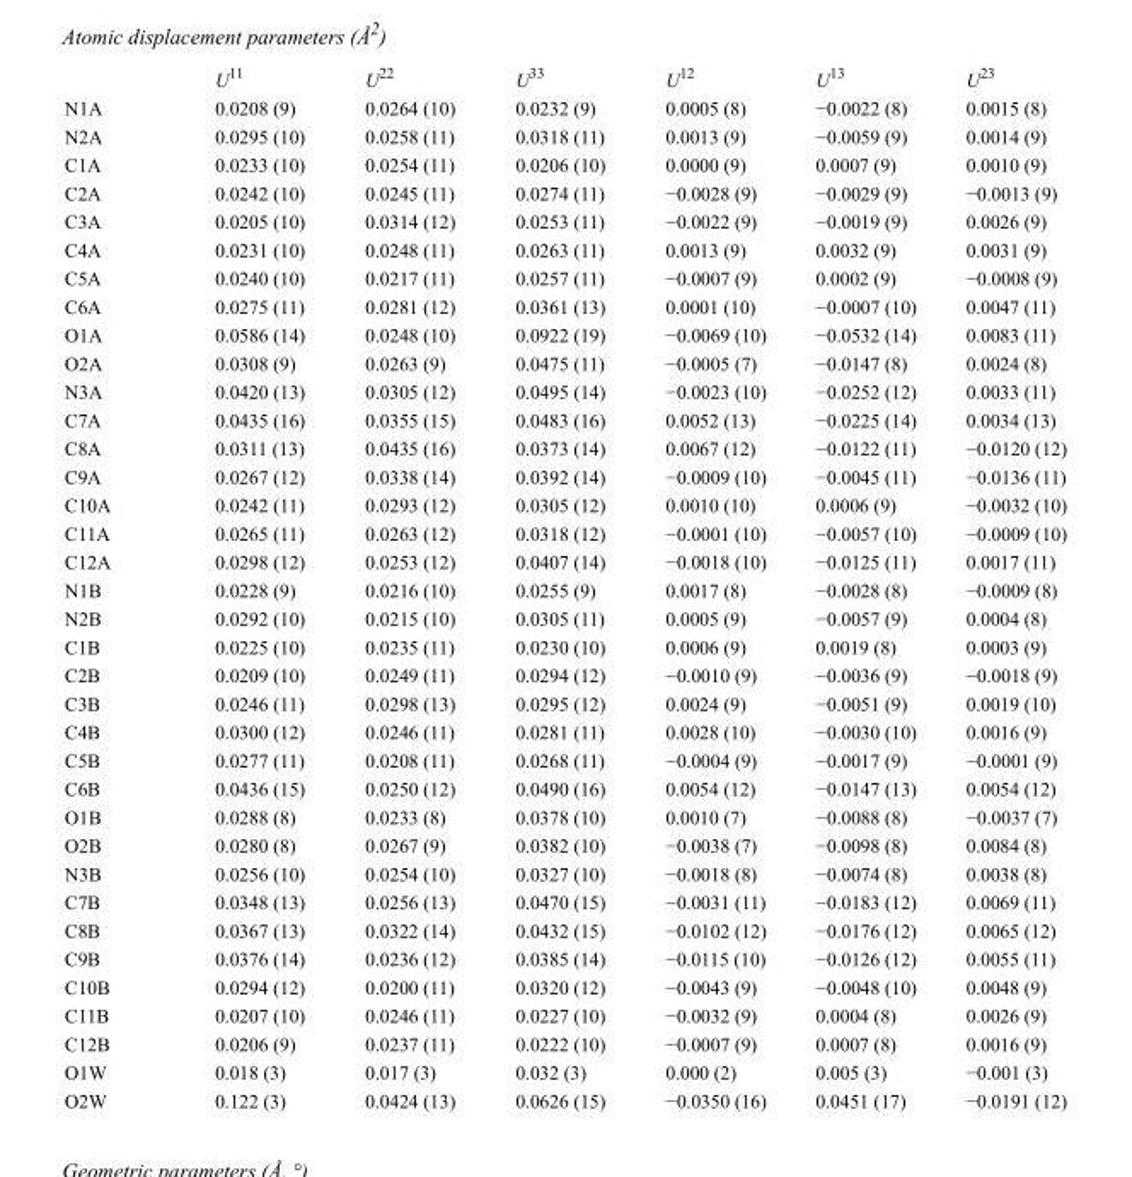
<table><thead><tr><td></td><td>U<sup>11</sup></td><td>U<sup>22</sup></td><td>U<sup>33</sup></td><td>U<sup>12</sup></td><td>U<sup>13</sup></td><td>U<sup>23</sup></td></tr></thead><tbody><tr><td>N1A</td><td>0.0208 (9)</td><td>0.0264 (10)</td><td>0.0232 (9)</td><td>0.0005 (8)</td><td>−0.0022 (8)</td><td>0.0015 (8)</td></tr><tr><td>N2A</td><td>0.0295 (10)</td><td>0.0258 (11)</td><td>0.0318 (11)</td><td>0.0013 (9)</td><td>−0.0059 (9)</td><td>0.0014 (9)</td></tr><tr><td>C1A</td><td>0.0233 (10)</td><td>0.0254 (11)</td><td>0.0206 (10)</td><td>0.0000 (9)</td><td>0.0007 (9)</td><td>0.0010 (9)</td></tr><tr><td>C2A</td><td>0.0242 (10)</td><td>0.0245 (11)</td><td>0.0274 (11)</td><td>−0.0028 (9)</td><td>−0.0029 (9)</td><td>−0.0013 (9)</td></tr><tr><td>C3A</td><td>0.0205 (10)</td><td>0.0314 (12)</td><td>0.0253 (11)</td><td>−0.0022 (9)</td><td>−0.0019 (9)</td><td>0.0026 (9)</td></tr><tr><td>C4A</td><td>0.0231 (10)</td><td>0.0248 (11)</td><td>0.0263 (11)</td><td>0.0013 (9)</td><td>0.0032 (9)</td><td>0.0031 (9)</td></tr><tr><td>C5A</td><td>0.0240 (10)</td><td>0.0217 (11)</td><td>0.0257 (11)</td><td>−0.0007 (9)</td><td>0.0002 (9)</td><td>−0.0008 (9)</td></tr><tr><td>C6A</td><td>0.0275 (11)</td><td>0.0281 (12)</td><td>0.0361 (13)</td><td>0.0001 (10)</td><td>−0.0007 (10)</td><td>0.0047 (11)</td></tr><tr><td>O1A</td><td>0.0586 (14)</td><td>0.0248 (10)</td><td>0.0922 (19)</td><td>−0.0069 (10)</td><td>−0.0532 (14)</td><td>0.0083 (11)</td></tr><tr><td>O2A</td><td>0.0308 (9)</td><td>0.0263 (9)</td><td>0.0475 (11)</td><td>−0.0005 (7)</td><td>−0.0147 (8)</td><td>0.0024 (8)</td></tr><tr><td>N3A</td><td>0.0420 (13)</td><td>0.0305 (12)</td><td>0.0495 (14)</td><td>−0.0023 (10)</td><td>−0.0252 (12)</td><td>0.0033 (11)</td></tr><tr><td>C7A</td><td>0.0435 (16)</td><td>0.0355 (15)</td><td>0.0483 (16)</td><td>0.0052 (13)</td><td>−0.0225 (14)</td><td>0.0034 (13)</td></tr><tr><td>C8A</td><td>0.0311 (13)</td><td>0.0435 (16)</td><td>0.0373 (14)</td><td>0.0067 (12)</td><td>−0.0122 (11)</td><td>−0.0120 (12)</td></tr><tr><td>C9A</td><td>0.0267 (12)</td><td>0.0338 (14)</td><td>0.0392 (14)</td><td>−0.0009 (10)</td><td>−0.0045 (11)</td><td>−0.0136 (11)</td></tr><tr><td>C10A</td><td>0.0242 (11)</td><td>0.0293 (12)</td><td>0.0305 (12)</td><td>0.0010 (10)</td><td>0.0006 (9)</td><td>−0.0032 (10)</td></tr><tr><td>C11A</td><td>0.0265 (11)</td><td>0.0263 (12)</td><td>0.0318 (12)</td><td>−0.0001 (10)</td><td>−0.0057 (10)</td><td>−0.0009 (10)</td></tr><tr><td>C12A</td><td>0.0298 (12)</td><td>0.0253 (12)</td><td>0.0407 (14)</td><td>−0.0018 (10)</td><td>−0.0125 (11)</td><td>0.0017 (11)</td></tr><tr><td>N1B</td><td>0.0228 (9)</td><td>0.0216 (10)</td><td>0.0255 (9)</td><td>0.0017 (8)</td><td>−0.0028 (8)</td><td>−0.0009 (8)</td></tr><tr><td>N2B</td><td>0.0292 (10)</td><td>0.0215 (10)</td><td>0.0305 (11)</td><td>0.0005 (9)</td><td>−0.0057 (9)</td><td>0.0004 (8)</td></tr><tr><td>C1B</td><td>0.0225 (10)</td><td>0.0235 (11)</td><td>0.0230 (10)</td><td>0.0006 (9)</td><td>0.0019 (8)</td><td>0.0003 (9)</td></tr><tr><td>C2B</td><td>0.0209 (10)</td><td>0.0249 (11)</td><td>0.0294 (12)</td><td>−0.0010 (9)</td><td>−0.0036 (9)</td><td>−0.0018 (9)</td></tr><tr><td>C3B</td><td>0.0246 (11)</td><td>0.0298 (13)</td><td>0.0295 (12)</td><td>0.0024 (9)</td><td>−0.0051 (9)</td><td>0.0019 (10)</td></tr><tr><td>C4B</td><td>0.0300 (12)</td><td>0.0246 (11)</td><td>0.0281 (11)</td><td>0.0028 (10)</td><td>−0.0030 (10)</td><td>0.0016 (9)</td></tr><tr><td>C5B</td><td>0.0277 (11)</td><td>0.0208 (11)</td><td>0.0268 (11)</td><td>−0.0004 (9)</td><td>−0.0017 (9)</td><td>−0.0001 (9)</td></tr><tr><td>C6B</td><td>0.0436 (15)</td><td>0.0250 (12)</td><td>0.0490 (16)</td><td>0.0054 (12)</td><td>−0.0147 (13)</td><td>0.0054 (12)</td></tr><tr><td>O1B</td><td>0.0288 (8)</td><td>0.0233 (8)</td><td>0.0378 (10)</td><td>0.0010 (7)</td><td>−0.0088 (8)</td><td>−0.0037 (7)</td></tr><tr><td>O2B</td><td>0.0280 (8)</td><td>0.0267 (9)</td><td>0.0382 (10)</td><td>−0.0038 (7)</td><td>−0.0098 (8)</td><td>0.0084 (8)</td></tr><tr><td>N3B</td><td>0.0256 (10)</td><td>0.0254 (10)</td><td>0.0327 (10)</td><td>−0.0018 (8)</td><td>−0.0074 (8)</td><td>0.0038 (8)</td></tr><tr><td>C7B</td><td>0.0348 (13)</td><td>0.0256 (13)</td><td>0.0470 (15)</td><td>−0.0031 (11)</td><td>−0.0183 (12)</td><td>0.0069 (11)</td></tr><tr><td>C8B</td><td>0.0367 (13)</td><td>0.0322 (14)</td><td>0.0432 (15)</td><td>−0.0102 (12)</td><td>−0.0176 (12)</td><td>0.0065 (12)</td></tr><tr><td>C9B</td><td>0.0376 (14)</td><td>0.0236 (12)</td><td>0.0385 (14)</td><td>−0.0115 (10)</td><td>−0.0126 (12)</td><td>0.0055 (11)</td></tr><tr><td>C10B</td><td>0.0294 (12)</td><td>0.0200 (11)</td><td>0.0320 (12)</td><td>−0.0043 (9)</td><td>−0.0048 (10)</td><td>0.0048 (9)</td></tr><tr><td>C11B</td><td>0.0207 (10)</td><td>0.0246 (11)</td><td>0.0227 (10)</td><td>−0.0032 (9)</td><td>0.0004 (8)</td><td>0.0026 (9)</td></tr><tr><td>C12B</td><td>0.0206 (9)</td><td>0.0237 (11)</td><td>0.0222 (10)</td><td>−0.0007 (9)</td><td>0.0007 (8)</td><td>0.0016 (9)</td></tr><tr><td>O1W</td><td>0.018 (3)</td><td>0.017 (3)</td><td>0.032 (3)</td><td>0.000 (2)</td><td>0.005 (3)</td><td>−0.001 (3)</td></tr><tr><td>O2W</td><td>0.122 (3)</td><td>0.0424 (13)</td><td>0.0626 (15)</td><td>−0.0350 (16)</td><td>0.0451 (17)</td><td>−0.0191 (12)</td></tr></tbody></table>